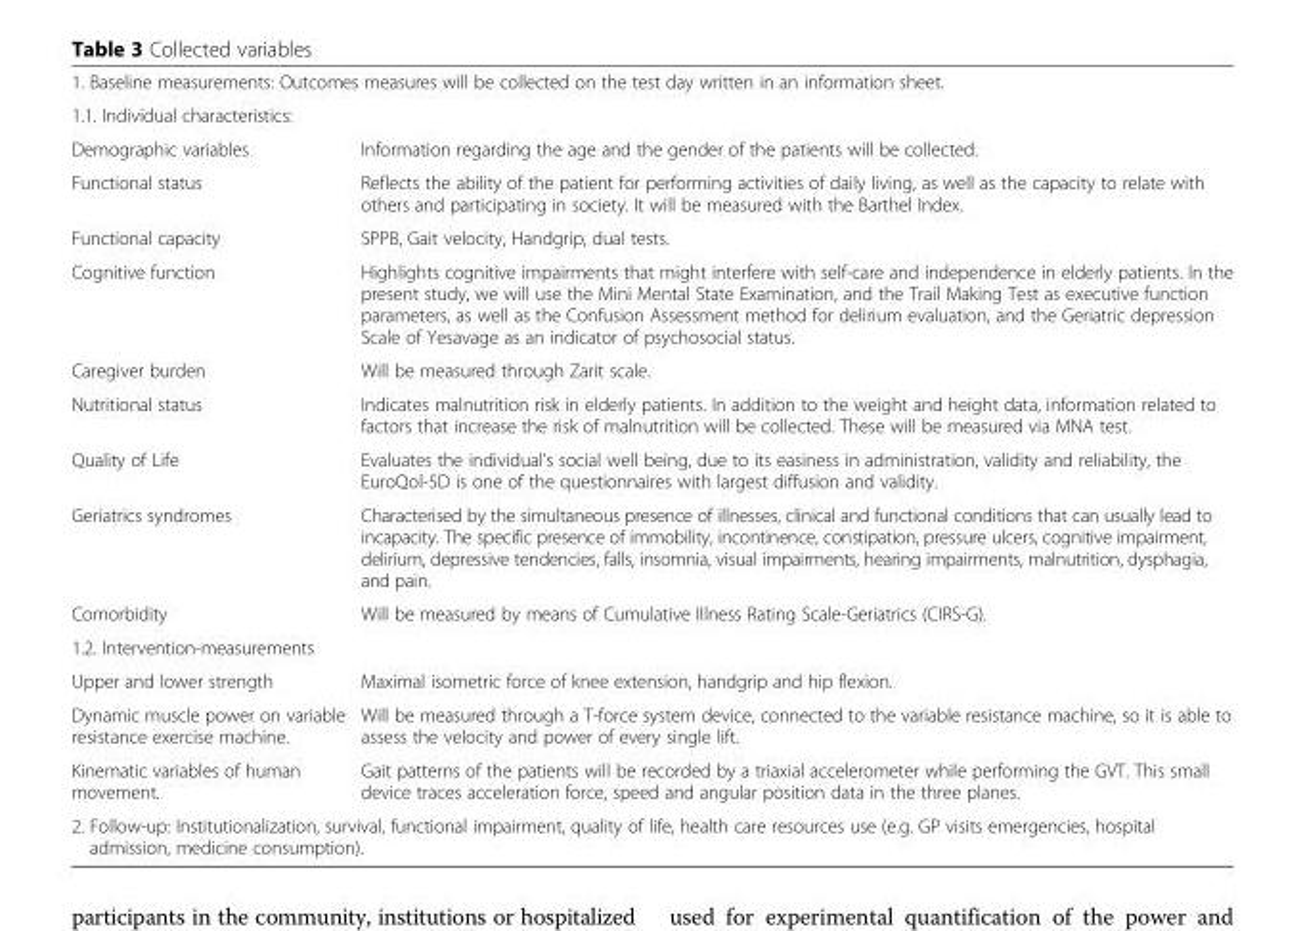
<table><tbody><tr><td colspan="2">1. Baseline measurements: Outcomes measures will be collected on the test day written in an information sheet.</td></tr><tr><td colspan="2">1.1. Individual characteristics:</td></tr><tr><td>Demographic variables</td><td>Information regarding the age and the gender of the patients will be collected.</td></tr><tr><td>Functional status</td><td>Reflects the ability of the patient for performing activities of daily living, as well as the capacity to relate with others and participating in society. It will be measured with the Barthel Index.</td></tr><tr><td>Functional capacity</td><td>SPPB, Gait velocity, Handgrip, dual tests.</td></tr><tr><td>Cognitive function</td><td>Highlights cognitive impairments that might interfere with self-care and independence in elderly patients. In the present study, we will use the Mini Mental State Examination, and the Trail Making Test as executive function parameters, as well as the Confusion Assessment method for delirium evaluation, and the Geriatric depression Scale of Yesavage as an indicator of psychosocial status.</td></tr><tr><td>Caregiver burden</td><td>Will be measured through Zarit scale.</td></tr><tr><td>Nutritional status</td><td>Indicates malnutrition risk in elderly patients. In addition to the weight and height data, information related to factors that increase the risk of malnutrition will be collected. These will be measured via MNA test.</td></tr><tr><td>Quality of Life</td><td>Evaluates the individual’s social well being, due to its easiness in administration, validity and reliability, the EuroQol-5D is one of the questionnaires with largest diffusion and validity.</td></tr><tr><td>Geriatrics syndromes</td><td>Characterised by the simultaneous presence of illnesses, clinical and functional conditions that can usually lead to incapacity. The specific presence of immobility, incontinence, constipation, pressure ulcers, cognitive impairment, delirium, depressive tendencies, falls, insomnia, visual impairments, hearing impairments, malnutrition, dysphagia, and pain.</td></tr><tr><td>Comorbidity</td><td>Will be measured by means of Cumulative Illness Rating Scale-Geriatrics (CIRS-G).</td></tr><tr><td colspan="2">1.2. Intervention-measurements</td></tr><tr><td>Upper and lower strength</td><td>Maximal isometric force of knee extension, handgrip and hip flexion.</td></tr><tr><td>Dynamic muscle power on variable resistance exercise machine.</td><td>Will be measured through a T-force system device, connected to the variable resistance machine, so it is able to assess the velocity and power of every single lift.</td></tr><tr><td>Kinematic variables of human movement.</td><td>Gait patterns of the patients will be recorded by a triaxial accelerometer while performing the GVT. This small device traces acceleration force, speed and angular position data in the three planes.</td></tr><tr><td colspan="2">2. Follow-up: Institutionalization, survival, functional impairment, quality of life, health care resources use (e.g. GP visits emergencies, hospital admission, medicine consumption).</td></tr></tbody></table>